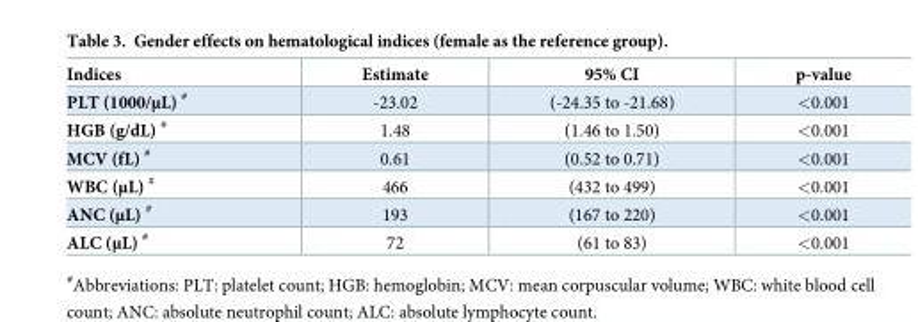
<table><thead><tr><td>Indices</td><td>Estimate</td><td>95% CI</td><td>p-value</td></tr></thead><tbody><tr><td>PLT (1000/μL) <sup>#</sup></td><td>-23.02</td><td>(-24.35 to -21.68)</td><td>&lt;0.001</td></tr><tr><td>HGB (g/dL) <sup>#</sup></td><td>1.48</td><td>(1.46 to 1.50)</td><td>&lt;0.001</td></tr><tr><td>MCV (fL) <sup>#</sup></td><td>0.61</td><td>(0.52 to 0.71)</td><td>&lt;0.001</td></tr><tr><td>WBC (μL) <sup>#</sup></td><td>466</td><td>(432 to 499)</td><td>&lt;0.001</td></tr><tr><td>ANC (μL) <sup>#</sup></td><td>193</td><td>(167 to 220)</td><td>&lt;0.001</td></tr><tr><td>ALC (μL) <sup>#</sup></td><td>72</td><td>(61 to 83)</td><td>&lt;0.001</td></tr></tbody></table>